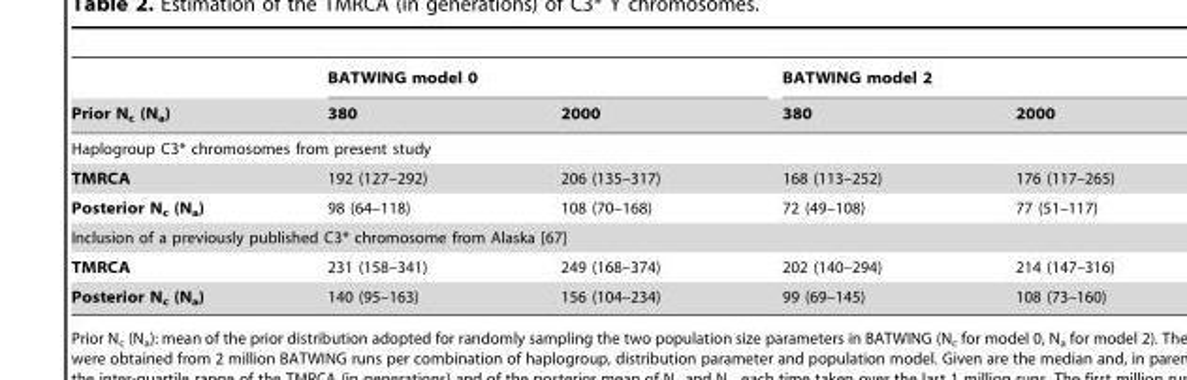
<table><thead><tr><td rowspan="2">Prior N<sub>c</sub> (N<sub>a</sub>)</td><td colspan="2">BATWING model 0</td><td colspan="2">BATWING model 2</td></tr><tr><td>380</td><td>2000</td><td>380</td><td>2000</td></tr></thead><tbody><tr><td colspan="5">Haplogroup C3* chromosomes from present study</td></tr><tr><td>TMRCA</td><td>192 (127–292)</td><td>206 (135–317)</td><td>168 (113–252)</td><td>176 (117–265)</td></tr><tr><td>Posterior N<sub>c</sub> (N<sub>a</sub>)</td><td>98 (64–118)</td><td>108 (70–168)</td><td>72 (49–108)</td><td>77 (51–117)</td></tr><tr><td colspan="5">Inclusion of a previously published C3* chromosome from Alaska [67]</td></tr><tr><td>TMRCA</td><td>231 (158–341)</td><td>249 (168–374)</td><td>202 (140–294)</td><td>214 (147–316)</td></tr><tr><td>Posterior N<sub>c</sub> (N<sub>a</sub>)</td><td>140 (95–163)</td><td>156 (104–234)</td><td>99 (69–145)</td><td>108 (73–160)</td></tr></tbody></table>